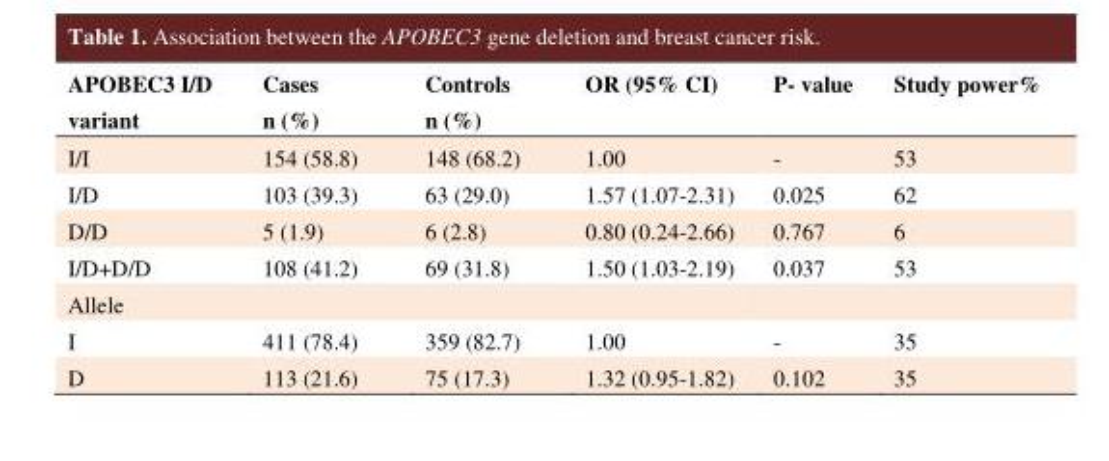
<table><thead><tr><td>APOBEC3 I/D variant</td><td>Cases n (%)</td><td>Controls n (%)</td><td>OR (95% CI)</td><td>P- value</td><td>Study power%</td></tr></thead><tbody><tr><td>I/I</td><td>154 (58.8)</td><td>148 (68.2)</td><td>1.00</td><td>-</td><td>53</td></tr><tr><td>I/D</td><td>103 (39.3)</td><td>63 (29.0)</td><td>1.57 (1.07-2.31)</td><td>0.025</td><td>62</td></tr><tr><td>D/D</td><td>5 (1.9)</td><td>6 (2.8)</td><td>0.80 (0.24-2.66)</td><td>0.767</td><td>6</td></tr><tr><td>I/D+D/D</td><td>108 (41.2)</td><td>69 (31.8)</td><td>1.50 (1.03-2.19)</td><td>0.037</td><td>53</td></tr><tr><td colspan="6">Allele</td></tr><tr><td>I</td><td>411 (78.4)</td><td>359 (82.7)</td><td>1.00</td><td>-</td><td>35</td></tr><tr><td>D</td><td>113 (21.6)</td><td>75 (17.3)</td><td>1.32 (0.95-1.82)</td><td>0.102</td><td>35</td></tr></tbody></table>